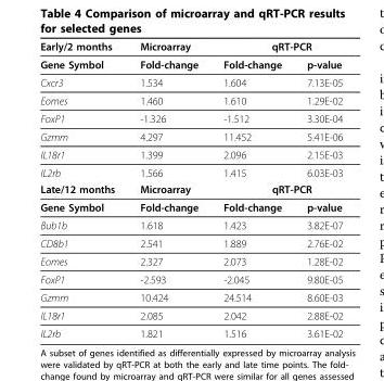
<table><thead><tr><td rowspan="2">Early/2 months Gene Symbol</td><td rowspan="2">Microarray Fold-change</td><td colspan="2">qRT-PCR</td></tr><tr><td>Fold-change</td><td>p-value</td></tr></thead><tbody><tr><td>Cxcr3</td><td>1.534</td><td>1.604</td><td>7.13E-05</td></tr><tr><td>Eomes</td><td>1.460</td><td>1.610</td><td>1.29E-02</td></tr><tr><td>FoxP1</td><td>-1.326</td><td>-1.512</td><td>3.30E-04</td></tr><tr><td>Gzmm</td><td>4.297</td><td>11.452</td><td>5.41E-06</td></tr><tr><td>IL18r1</td><td>1.399</td><td>2.096</td><td>2.15E-03</td></tr><tr><td>IL2rb</td><td>1.566</td><td>1.415</td><td>6.03E-03</td></tr><tr><td>Late/12 months</td><td>Microarray</td><td colspan="2">qRT-PCR</td></tr><tr><td>Gene Symbol</td><td>Fold-change</td><td>Fold-change</td><td>p-value</td></tr><tr><td>Bub1b</td><td>1.618</td><td>1.423</td><td>3.82E-07</td></tr><tr><td>CD8b1</td><td>2.541</td><td>1.889</td><td>2.76E-02</td></tr><tr><td>Eomes</td><td>2.327</td><td>2.073</td><td>1.28E-02</td></tr><tr><td>FoxP1</td><td>-2.593</td><td>-2.045</td><td>9.80E-05</td></tr><tr><td>Gzmm</td><td>10.424</td><td>24.514</td><td>8.60E-03</td></tr><tr><td>IL18r1</td><td>2.085</td><td>2.042</td><td>2.88E-02</td></tr><tr><td>IL2rb</td><td>1.821</td><td>1.516</td><td>3.61E-02</td></tr></tbody></table>